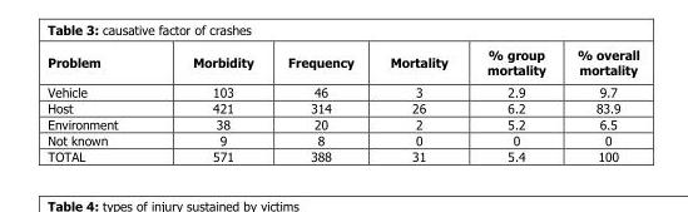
<table><thead><tr><td>Problem</td><td>Morbidity</td><td>Frequency</td><td>Mortality</td><td>% group mortality</td><td>% overall mortality</td></tr></thead><tbody><tr><td>Vehicle</td><td>103</td><td>46</td><td>3</td><td>2.9</td><td>9.7</td></tr><tr><td>Host</td><td>421</td><td>314</td><td>26</td><td>6.2</td><td>83.9</td></tr><tr><td>Environment</td><td>38</td><td>20</td><td>2</td><td>5.2</td><td>6.5</td></tr><tr><td>Not known</td><td>9</td><td>8</td><td>0</td><td>0</td><td>0</td></tr><tr><td>TOTAL</td><td>571</td><td>388</td><td>31</td><td>5.4</td><td>100</td></tr></tbody></table>